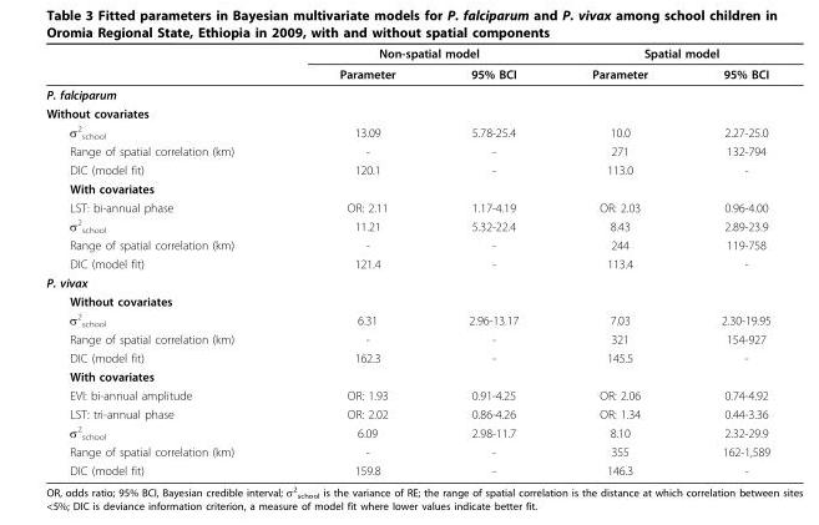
<table><thead><tr><td rowspan="2"></td><td colspan="2">Non-spatial model</td><td colspan="2">Spatial model</td></tr><tr><td>Parameter</td><td>95% BCI</td><td>Parameter</td><td>95% BCI</td></tr></thead><tbody><tr><td colspan="5">P. falciparum</td></tr><tr><td colspan="5">Without covariates</td></tr><tr><td>σ<sup>2</sup> <sub>school</sub></td><td>13.09</td><td>5.78-25.4</td><td>10.0</td><td>2.27-25.0</td></tr><tr><td>Range of spatial correlation (km)</td><td>-</td><td>-</td><td>271</td><td>132-794</td></tr><tr><td>DIC (model fit)</td><td>120.1</td><td>-</td><td>113.0</td><td>-</td></tr><tr><td colspan="5">With covariates</td></tr><tr><td>LST: bi-annual phase</td><td>OR: 2.11</td><td>1.17-4.19</td><td>OR: 2.03</td><td>0.96-4.00</td></tr><tr><td>σ<sup>2</sup> <sub>school</sub></td><td>11.21</td><td>5.32-22.4</td><td>8.43</td><td>2.89-23.9</td></tr><tr><td>Range of spatial correlation (km)</td><td>-</td><td>-</td><td>244</td><td>119-758</td></tr><tr><td>DIC (model fit)</td><td>121.4</td><td>-</td><td>113.4</td><td>-</td></tr><tr><td colspan="5">P. vivax</td></tr><tr><td colspan="5">Without covariates</td></tr><tr><td>σ<sup>2</sup> <sub>school</sub></td><td>6.31</td><td>2.96-13.17</td><td>7.03</td><td>2.30-19.95</td></tr><tr><td>Range of spatial correlation (km)</td><td>-</td><td>-</td><td>321</td><td>154-927</td></tr><tr><td>DIC (model fit)</td><td>162.3</td><td>-</td><td>145.5</td><td>-</td></tr><tr><td colspan="5">With covariates</td></tr><tr><td>EVI: bi-annual amplitude</td><td>OR: 1.93</td><td>0.91-4.25</td><td>OR: 2.06</td><td>0.74-4.92</td></tr><tr><td>LST: tri-annual phase</td><td>OR: 2.02</td><td>0.86-4.26</td><td>OR: 1.34</td><td>0.44-3.36</td></tr><tr><td>σ<sup>2</sup> <sub>school</sub></td><td>6.09</td><td>2.98-11.7</td><td>8.10</td><td>2.32-29.9</td></tr><tr><td>Range of spatial correlation (km)</td><td>-</td><td>-</td><td>355</td><td>162-1,589</td></tr><tr><td>DIC (model fit)</td><td>159.8</td><td>-</td><td>146.3</td><td>-</td></tr></tbody></table>